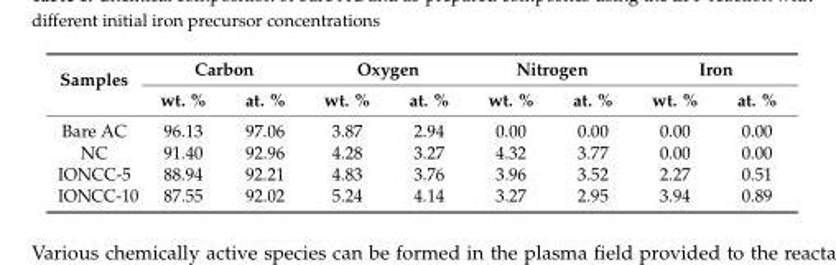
<table><thead><tr><td rowspan="2">Samples</td><td colspan="2">Carbon</td><td colspan="2">Oxygen</td><td colspan="2">Nitrogen</td><td colspan="2">Iron</td></tr><tr><td>wt. %</td><td>at. %</td><td>wt. %</td><td>at. %</td><td>wt. %</td><td>at. %</td><td>wt. %</td><td>at. %</td></tr></thead><tbody><tr><td>Bare AC</td><td>96.13</td><td>97.06</td><td>3.87</td><td>2.94</td><td>0.00</td><td>0.00</td><td>0.00</td><td>0.00</td></tr><tr><td>NC</td><td>91.40</td><td>92.96</td><td>4.28</td><td>3.27</td><td>4.32</td><td>3.77</td><td>0.00</td><td>0.00</td></tr><tr><td>IONCC-5</td><td>88.94</td><td>92.21</td><td>4.83</td><td>3.76</td><td>3.96</td><td>3.52</td><td>2.27</td><td>0.51</td></tr><tr><td>IONCC-10</td><td>87.55</td><td>92.02</td><td>5.24</td><td>4.14</td><td>3.27</td><td>2.95</td><td>3.94</td><td>0.89</td></tr></tbody></table>